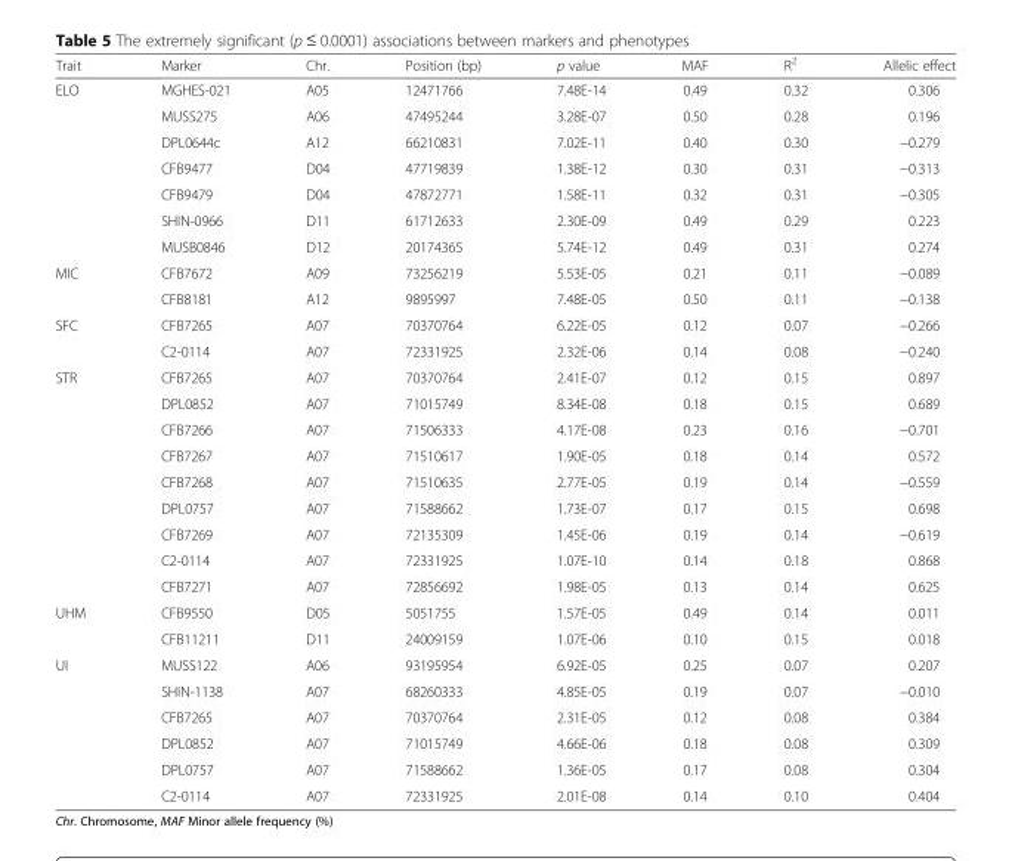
<table><thead><tr><td>Trait</td><td>Marker</td><td>Chr.</td><td>Position (bp)</td><td>p value</td><td>MAF</td><td>R<sup>2</sup></td><td>Allelic effect</td></tr></thead><tbody><tr><td rowspan="7">ELO</td><td>MGHES-021</td><td>A05</td><td>12471766</td><td>7.48E-14</td><td>0.49</td><td>0.32</td><td>0.306</td></tr><tr><td>MUSS275</td><td>A06</td><td>47495244</td><td>3.28E-07</td><td>0.50</td><td>0.28</td><td>0.196</td></tr><tr><td>DPL0644c</td><td>A12</td><td>66210831</td><td>7.02E-11</td><td>0.40</td><td>0.30</td><td>−0.279</td></tr><tr><td>CFB9477</td><td>D04</td><td>47719839</td><td>1.38E-12</td><td>0.30</td><td>0.31</td><td>−0.313</td></tr><tr><td>CFB9479</td><td>D04</td><td>47872771</td><td>1.58E-11</td><td>0.32</td><td>0.31</td><td>−0.305</td></tr><tr><td>SHIN-0966</td><td>D11</td><td>61712633</td><td>2.30E-09</td><td>0.49</td><td>0.29</td><td>0.223</td></tr><tr><td>MUSB0846</td><td>D12</td><td>20174365</td><td>5.74E-12</td><td>0.49</td><td>0.31</td><td>0.274</td></tr><tr><td rowspan="2">MIC</td><td>CFB7672</td><td>A09</td><td>73256219</td><td>5.53E-05</td><td>0.21</td><td>0.11</td><td>−0.089</td></tr><tr><td>CFB8181</td><td>A12</td><td>9895997</td><td>7.48E-05</td><td>0.50</td><td>0.11</td><td>−0.138</td></tr><tr><td rowspan="2">SFC</td><td>CFB7265</td><td>A07</td><td>70370764</td><td>6.22E-05</td><td>0.12</td><td>0.07</td><td>−0.266</td></tr><tr><td>C2-0114</td><td>A07</td><td>72331925</td><td>2.32E-06</td><td>0.14</td><td>0.08</td><td>−0.240</td></tr><tr><td rowspan="9">STR</td><td>CFB7265</td><td>A07</td><td>70370764</td><td>2.41E-07</td><td>0.12</td><td>0.15</td><td>0.897</td></tr><tr><td>DPL0852</td><td>A07</td><td>71015749</td><td>8.34E-08</td><td>0.18</td><td>0.15</td><td>0.689</td></tr><tr><td>CFB7266</td><td>A07</td><td>71506333</td><td>4.17E-08</td><td>0.23</td><td>0.16</td><td>−0.701</td></tr><tr><td>CFB7267</td><td>A07</td><td>71510617</td><td>1.90E-05</td><td>0.18</td><td>0.14</td><td>0.572</td></tr><tr><td>CFB7268</td><td>A07</td><td>71510635</td><td>2.77E-05</td><td>0.19</td><td>0.14</td><td>−0.559</td></tr><tr><td>DPL0757</td><td>A07</td><td>71588662</td><td>1.73E-07</td><td>0.17</td><td>0.15</td><td>0.698</td></tr><tr><td>CFB7269</td><td>A07</td><td>72135309</td><td>1.45E-06</td><td>0.19</td><td>0.14</td><td>−0.619</td></tr><tr><td>C2-0114</td><td>A07</td><td>72331925</td><td>1.07E-10</td><td>0.14</td><td>0.18</td><td>0.868</td></tr><tr><td>CFB7271</td><td>A07</td><td>72856692</td><td>1.98E-05</td><td>0.13</td><td>0.14</td><td>0.625</td></tr><tr><td rowspan="2">UHM</td><td>CFB9550</td><td>D05</td><td>5051755</td><td>1.57E-05</td><td>0.49</td><td>0.14</td><td>0.011</td></tr><tr><td>CFB11211</td><td>D11</td><td>24009159</td><td>1.07E-06</td><td>0.10</td><td>0.15</td><td>0.018</td></tr><tr><td rowspan="6">UI</td><td>MUSS122</td><td>A06</td><td>93195954</td><td>6.92E-05</td><td>0.25</td><td>0.07</td><td>0.207</td></tr><tr><td>SHIN-1138</td><td>A07</td><td>68260333</td><td>4.85E-05</td><td>0.19</td><td>0.07</td><td>−0.010</td></tr><tr><td>CFB7265</td><td>A07</td><td>70370764</td><td>2.31E-05</td><td>0.12</td><td>0.08</td><td>0.384</td></tr><tr><td>DPL0852</td><td>A07</td><td>71015749</td><td>4.66E-06</td><td>0.18</td><td>0.08</td><td>0.309</td></tr><tr><td>DPL0757</td><td>A07</td><td>71588662</td><td>1.36E-05</td><td>0.17</td><td>0.08</td><td>0.304</td></tr><tr><td>C2-0114</td><td>A07</td><td>72331925</td><td>2.01E-08</td><td>0.14</td><td>0.10</td><td>0.404</td></tr></tbody></table>